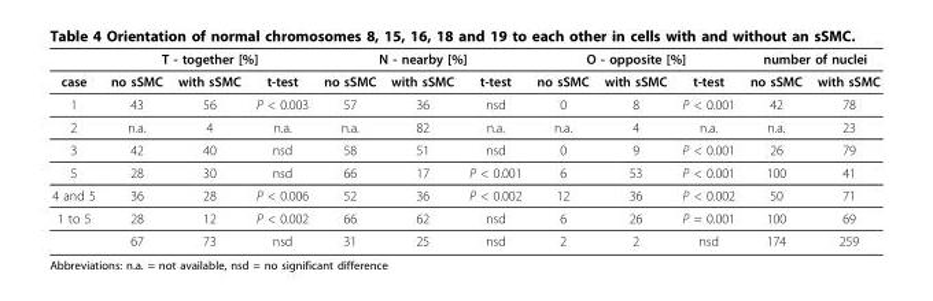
<table><thead><tr><td rowspan="2">case</td><td colspan="3">T - together [%]</td><td colspan="3">N - nearby [%]</td><td colspan="3">O - opposite [%]</td><td colspan="2">number of nuclei</td></tr><tr><td>no sSMC</td><td>with sSMC</td><td>t-test</td><td>no sSMC</td><td>with sSMC</td><td>t-test</td><td>no sSMC</td><td>with sSMC</td><td>t-test</td><td>no sSMC</td><td>with sSMC</td></tr></thead><tbody><tr><td>1</td><td>43</td><td>56</td><td>P &lt; 0.003</td><td>57</td><td>36</td><td>nsd</td><td>0</td><td>8</td><td>P &lt; 0.001</td><td>42</td><td>78</td></tr><tr><td>2</td><td>n.a.</td><td>4</td><td>n.a.</td><td>n.a.</td><td>82</td><td>n.a.</td><td>n.a.</td><td>4</td><td>n.a.</td><td>n.a.</td><td>23</td></tr><tr><td>3</td><td>42</td><td>40</td><td>nsd</td><td>58</td><td>51</td><td>nsd</td><td>0</td><td>9</td><td>P &lt; 0.001</td><td>26</td><td>79</td></tr><tr><td>5</td><td>28</td><td>30</td><td>nsd</td><td>66</td><td>17</td><td>P &lt; 0.001</td><td>6</td><td>53</td><td>P &lt; 0.001</td><td>100</td><td>41</td></tr><tr><td>4 and 5</td><td>36</td><td>28</td><td>P &lt; 0.006</td><td>52</td><td>36</td><td>P &lt; 0.002</td><td>12</td><td>36</td><td>P &lt; 0.002</td><td>50</td><td>71</td></tr><tr><td rowspan="2">1 to 5</td><td>28</td><td>12</td><td>P &lt; 0.002</td><td>66</td><td>62</td><td>nsd</td><td>6</td><td>26</td><td>P = 0.001</td><td>100</td><td>69</td></tr><tr><td>67</td><td>73</td><td>nsd</td><td>31</td><td>25</td><td>nsd</td><td>2</td><td>2</td><td>nsd</td><td>174</td><td>259</td></tr></tbody></table>